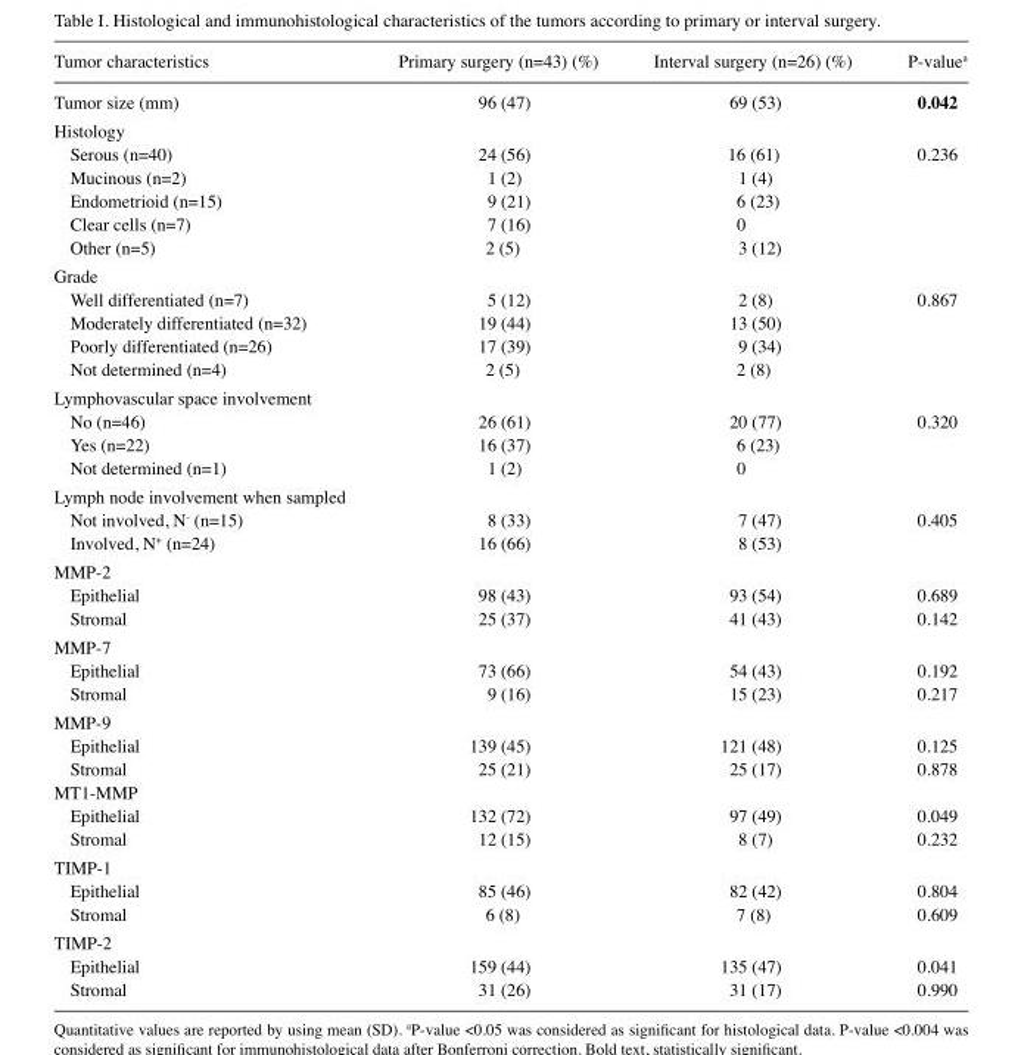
<table><thead><tr><td>Tumor characteristics</td><td>Primary surgery (n=43) (%)</td><td>Interval surgery (n=26) (%)</td><td>P-value<sup>a</sup></td></tr></thead><tbody><tr><td>Tumor size (mm)</td><td>96 (47)</td><td>69 (53)</td><td>0.042</td></tr><tr><td colspan="4">Histology</td></tr><tr><td>Serous (n=40)</td><td>24 (56)</td><td>16 (61)</td><td>0.236</td></tr><tr><td>Mucinous (n=2)</td><td>1 (2)</td><td>1 (4)</td><td></td></tr><tr><td>Endometrioid (n=15)</td><td>9 (21)</td><td>6 (23)</td><td></td></tr><tr><td>Clear cells (n=7)</td><td>7 (16)</td><td>0</td><td></td></tr><tr><td>Other (n=5)</td><td>2 (5)</td><td>3 (12)</td><td></td></tr><tr><td colspan="4">Grade</td></tr><tr><td>Well differentiated (n=7)</td><td>5 (12)</td><td>2 (8)</td><td>0.867</td></tr><tr><td>Moderately differentiated (n=32)</td><td>19 (44)</td><td>13 (50)</td><td></td></tr><tr><td>Poorly differentiated (n=26)</td><td>17 (39)</td><td>9 (34)</td><td></td></tr><tr><td>Not determined (n=4)</td><td>2 (5)</td><td>2 (8)</td><td></td></tr><tr><td colspan="4">Lymphovascular space involvement</td></tr><tr><td>No (n=46)</td><td>26 (61)</td><td>20 (77)</td><td>0.320</td></tr><tr><td>Yes (n=22)</td><td>16 (37)</td><td>6 (23)</td><td></td></tr><tr><td>Not determined (n=1)</td><td>1 (2)</td><td>0</td><td></td></tr><tr><td colspan="4">Lymph node involvement when sampled</td></tr><tr><td>Not involved, N<sup>-</sup> (n=15)</td><td>8 (33)</td><td>7 (47)</td><td>0.405</td></tr><tr><td>Involved, N<sup>+</sup> (n=24)</td><td>16 (66)</td><td>8 (53)</td><td></td></tr><tr><td colspan="4">MMP-2</td></tr><tr><td>Epithelial</td><td>98 (43)</td><td>93 (54)</td><td>0.689</td></tr><tr><td>Stromal</td><td>25 (37)</td><td>41 (43)</td><td>0.142</td></tr><tr><td colspan="4">MMP-7</td></tr><tr><td>Epithelial</td><td>73 (66)</td><td>54 (43)</td><td>0.192</td></tr><tr><td>Stromal</td><td>9 (16)</td><td>15 (23)</td><td>0.217</td></tr><tr><td colspan="4">MMP-9</td></tr><tr><td>Epithelial</td><td>139 (45)</td><td>121 (48)</td><td>0.125</td></tr><tr><td>Stromal</td><td>25 (21)</td><td>25 (17)</td><td>0.878</td></tr><tr><td colspan="4">MT1-MMP</td></tr><tr><td>Epithelial</td><td>132 (72)</td><td>97 (49)</td><td>0.049</td></tr><tr><td>Stromal</td><td>12 (15)</td><td>8 (7)</td><td>0.232</td></tr><tr><td colspan="4">TIMP-1</td></tr><tr><td>Epithelial</td><td>85 (46)</td><td>82 (42)</td><td>0.804</td></tr><tr><td>Stromal</td><td>6 (8)</td><td>7 (8)</td><td>0.609</td></tr><tr><td colspan="4">TIMP-2</td></tr><tr><td>Epithelial</td><td>159 (44)</td><td>135 (47)</td><td>0.041</td></tr><tr><td>Stromal</td><td>31 (26)</td><td>31 (17)</td><td>0.990</td></tr></tbody></table>